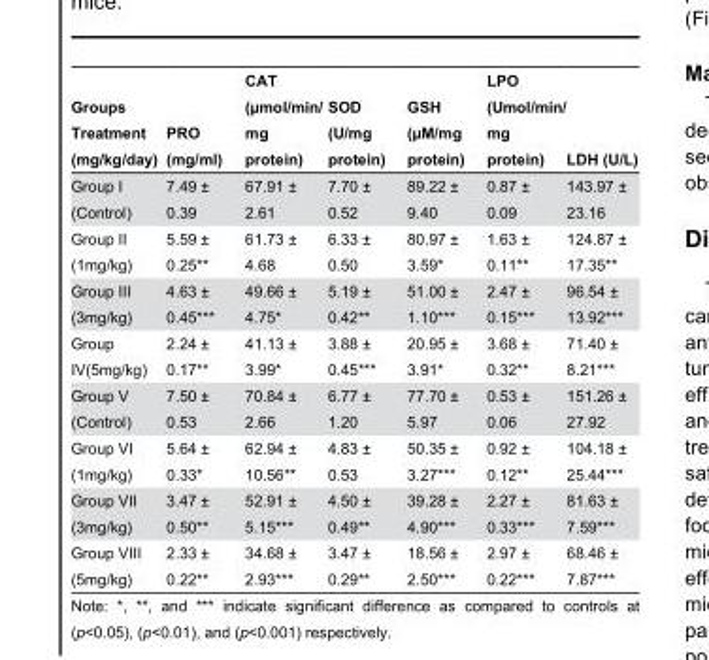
<table><thead><tr><td>Groups Treatment (mg/kg/day)</td><td>PRO (mg/ml)</td><td>CAT (µmol/min/ mg protein)</td><td>SOD (U/mg protein)</td><td>GSH (µM/mg protein)</td><td>LPO (Umol/min/ mg protein)</td><td>LDH (U/L)</td></tr></thead><tbody><tr><td>Group I (Control)</td><td>7.49 ± 0.39</td><td>67.91 ± 2.61</td><td>7.70 ± 0.52</td><td>89.22 ± 9.40</td><td>0.87 ± 0.09</td><td>143.97 ± 23.16</td></tr><tr><td>Group II (1mg/kg)</td><td>5.59 ± 0.25**</td><td>61.73 ± 4.68</td><td>6.33 ± 0.50</td><td>80.97 ± 3.59*</td><td>1.63 ± 0.11**</td><td>124.87 ± 17.35**</td></tr><tr><td>Group III (3mg/kg)</td><td>4.63 ± 0.45***</td><td>49.66 ± 4.75*</td><td>5.19 ± 0.42**</td><td>51.00 ± 1.10***</td><td>2.47 ± 0.15***</td><td>96.54 ± 13.92***</td></tr><tr><td>Group IV(5mg/kg)</td><td>2.24 ± 0.17**</td><td>41.13 ± 3.99*</td><td>3.88 ± 0.45***</td><td>20.95 ± 3.91*</td><td>3.68 ± 0.32**</td><td>71.40 ± 8.21***</td></tr><tr><td>Group V (Control)</td><td>7.50 ± 0.53</td><td>70.84 ± 2.66</td><td>6.77 ± 1.20</td><td>77.70 ± 5.97</td><td>0.53 ± 0.06</td><td>151.26 ± 27.92</td></tr><tr><td>Group VI (1mg/kg)</td><td>5.64 ± 0.33*</td><td>62.94 ± 10.56**</td><td>4.83 ± 0.53</td><td>50.35 ± 3.27***</td><td>0.92 ± 0.12**</td><td>104.18 ± 25.44***</td></tr><tr><td>Group VII (3mg/kg)</td><td>3.47 ± 0.50**</td><td>52.91 ± 5.15***</td><td>4.50 ± 0.49**</td><td>39.28 ± 4.90***</td><td>2.27 ± 0.33***</td><td>81.63 ± 7.59***</td></tr><tr><td>Group VIII (5mg/kg)</td><td>2.33 ± 0.22**</td><td>34.68 ± 2.93***</td><td>3.47 ± 0.29**</td><td>18.56 ± 2.50***</td><td>2.97 ± 0.22***</td><td>68.46 ± 7.87***</td></tr></tbody></table>